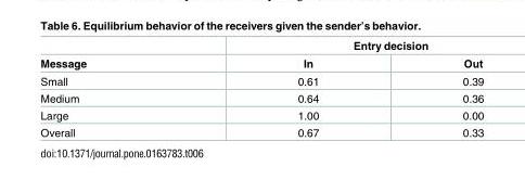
<table><thead><tr><td rowspan="2">Message</td><td colspan="2">Entry decision</td></tr><tr><td>In</td><td>Out</td></tr></thead><tbody><tr><td>Small</td><td>0.61</td><td>0.39</td></tr><tr><td>Medium</td><td>0.64</td><td>0.36</td></tr><tr><td>Large</td><td>1.00</td><td>0.00</td></tr><tr><td>Overall</td><td>0.67</td><td>0.33</td></tr></tbody></table>